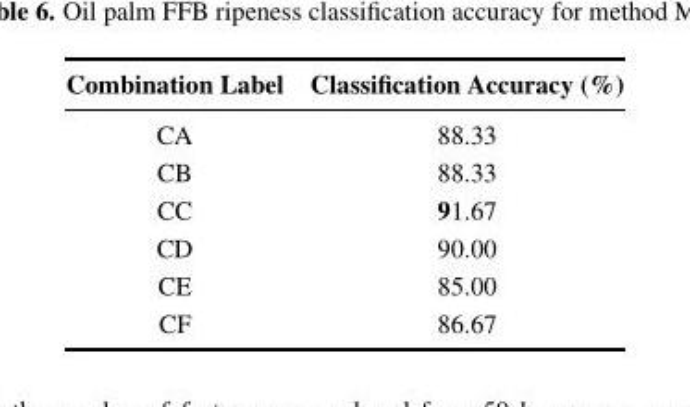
<table><thead><tr><td>Combination Label</td><td>Classification Accuracy (%)</td></tr></thead><tbody><tr><td>CA</td><td>88.33</td></tr><tr><td>CB</td><td>88.33</td></tr><tr><td>CC</td><td>91.67</td></tr><tr><td>CD</td><td>90.00</td></tr><tr><td>CE</td><td>85.00</td></tr><tr><td>CF</td><td>86.67</td></tr></tbody></table>